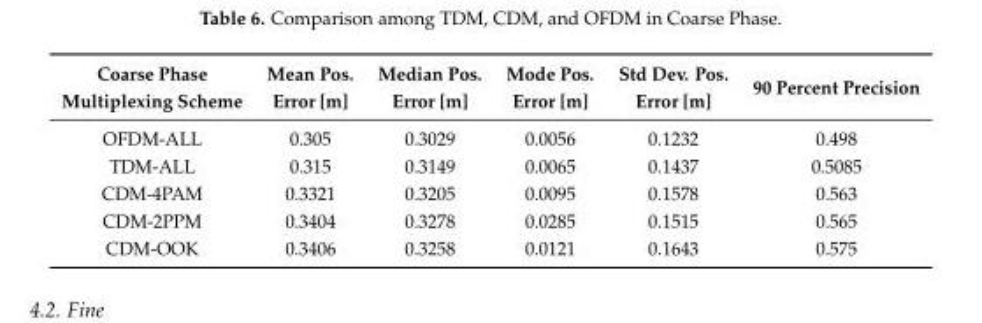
<table><thead><tr><td>Coarse Phase Multiplexing Scheme</td><td>Mean Pos. Error [m]</td><td>Median Pos. Error [m]</td><td>Mode Pos. Error [m]</td><td>Std Dev. Pos. Error [m]</td><td>90 Percent Precision</td></tr></thead><tbody><tr><td>OFDM-ALL</td><td>0.305</td><td>0.3029</td><td>0.0056</td><td>0.1232</td><td>0.498</td></tr><tr><td>TDM-ALL</td><td>0.315</td><td>0.3149</td><td>0.0065</td><td>0.1437</td><td>0.5085</td></tr><tr><td>CDM-4PAM</td><td>0.3321</td><td>0.3205</td><td>0.0095</td><td>0.1578</td><td>0.563</td></tr><tr><td>CDM-2PPM</td><td>0.3404</td><td>0.3278</td><td>0.0285</td><td>0.1515</td><td>0.565</td></tr><tr><td>CDM-OOK</td><td>0.3406</td><td>0.3258</td><td>0.0121</td><td>0.1643</td><td>0.575</td></tr></tbody></table>